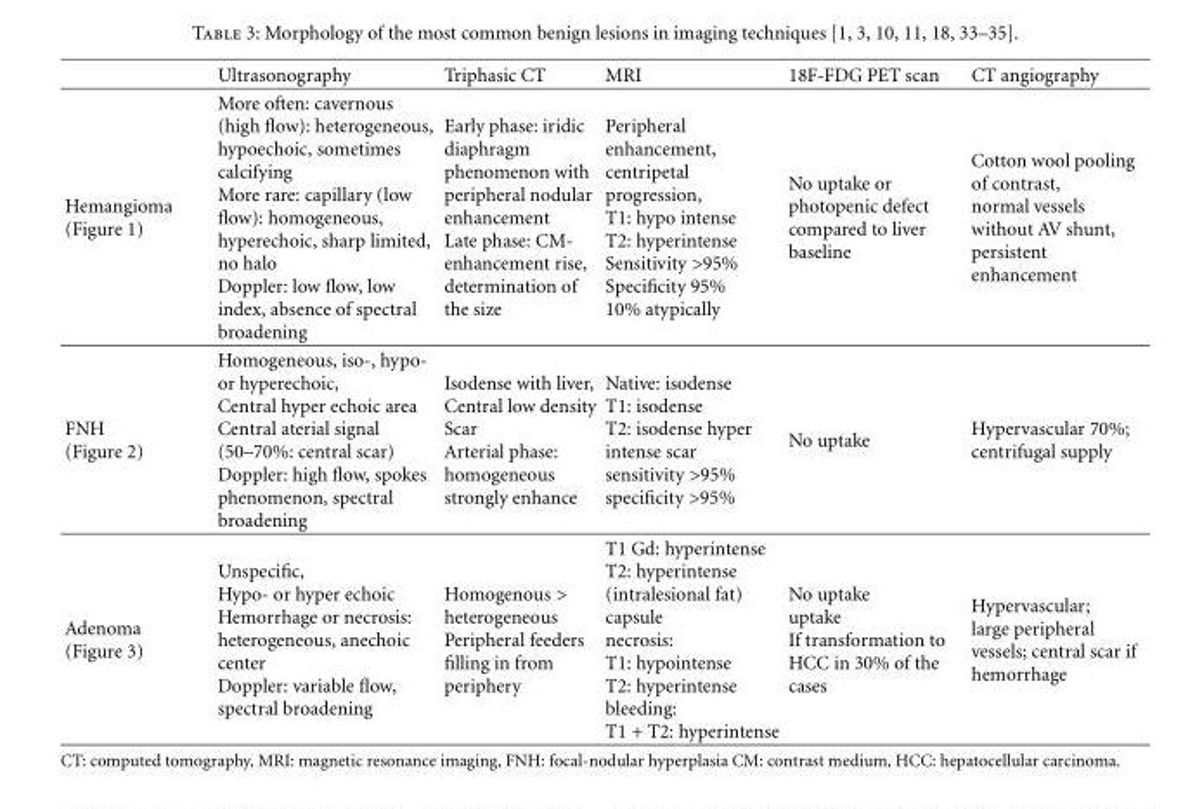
<table><thead><tr><td></td><td>Ultrasonography</td><td>Triphasic CT</td><td>MRI</td><td>18F-FDG PET scan</td><td>CT angiography</td></tr></thead><tbody><tr><td>Hemangioma (Figure 1)</td><td>More often: cavernous (high flow): heterogeneous, hypoechoic, sometimes calcifying More rare: capillary (low flow): homogeneous, hyperechoic, sharp limited, no halo Doppler: low flow, low index, absence of spectral broadening</td><td>Early phase: iridic diaphragm phenomenon with peripheral nodular enhancement Late phase: CM- enhancement rise, determination of the size</td><td>Peripheral enhancement, centripetal progression, T1: hypo intense T2: hyperintense Sensitivity &gt;95% Specificity 95% 10% atypically</td><td>No uptake or photopenic defect compared to liver baseline</td><td>Cotton wool pooling of contrast, normal vessels without AV shunt, persistent enhancement</td></tr><tr><td>FNH (Figure 2)</td><td>Homogeneous, iso-, hypo- or hyperechoic, Central hyper echoic area Central aterial signal (50–70%: central scar) Doppler: high flow, spokes phenomenon, spectral broadening</td><td>Isodense with liver, Central low density Scar Arterial phase: homogeneous strongly enhance</td><td>Native: isodense T1: isodense T2: isodense hyper intense scar sensitivity &gt;95% specificity &gt;95%</td><td>No uptake</td><td>Hypervascular 70%; centrifugal supply</td></tr><tr><td>Adenoma (Figure 3)</td><td>Unspecific, Hypo- or hyper echoic Hemorrhage or necrosis: heterogeneous, anechoic center Doppler: variable flow, spectral broadening</td><td>Homogenous &gt; heterogeneous Peripheral feeders filling in from periphery</td><td>T1 Gd: hyperintense T2: hyperintense (intralesional fat) capsule necrosis: T1: hypointense T2: hyperintense bleeding: T1 + T2: hyperintense</td><td>No uptake uptake If transformation to HCC in 30% of the cases</td><td>Hypervascular; large peripheral vessels; central scar if hemorrhage</td></tr></tbody></table>